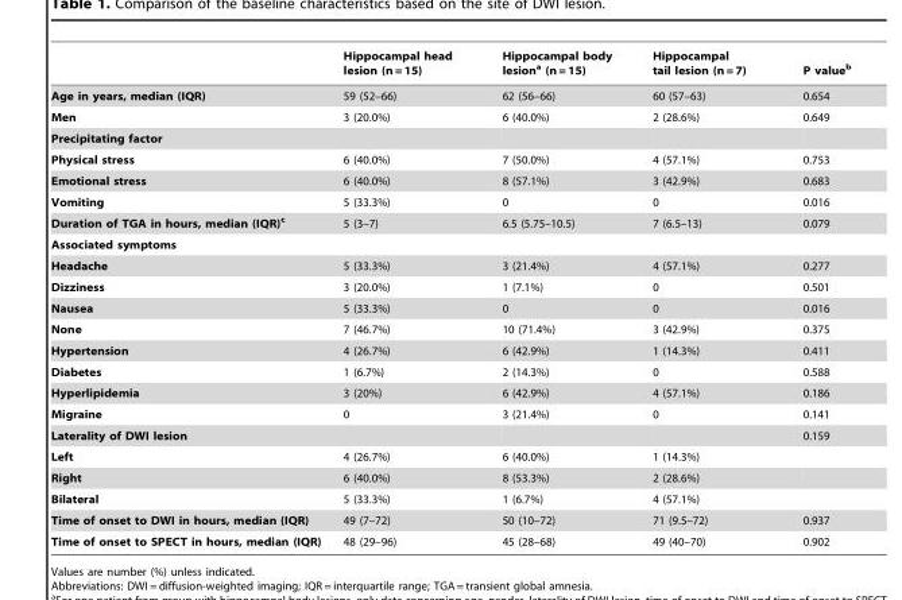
<table><thead><tr><td></td><td>Hippocampal head lesion (n = 15)</td><td>Hippocampal body lesion<sup>a</sup> (n = 15)</td><td>Hippocampal tail lesion (n = 7)</td><td>P value<sup>b</sup></td></tr></thead><tbody><tr><td>Age in years, median (IQR)</td><td>59 (52–66)</td><td>62 (56–66)</td><td>60 (57–63)</td><td>0.654</td></tr><tr><td>Men</td><td>3 (20.0%)</td><td>6 (40.0%)</td><td>2 (28.6%)</td><td>0.649</td></tr><tr><td colspan="5">Precipitating factor</td></tr><tr><td>Physical stress</td><td>6 (40.0%)</td><td>7 (50.0%)</td><td>4 (57.1%)</td><td>0.753</td></tr><tr><td>Emotional stress</td><td>6 (40.0%)</td><td>8 (57.1%)</td><td>3 (42.9%)</td><td>0.683</td></tr><tr><td>Vomiting</td><td>5 (33.3%)</td><td>0</td><td>0</td><td>0.016</td></tr><tr><td>Duration of TGA in hours, median (IQR)c</td><td>5 (3–7)</td><td>6.5 (5.75–10.5)</td><td>7 (6.5–13)</td><td>0.079</td></tr><tr><td colspan="5">Associated symptoms</td></tr><tr><td>Headache</td><td>5 (33.3%)</td><td>3 (21.4%)</td><td>4 (57.1%)</td><td>0.277</td></tr><tr><td>Dizziness</td><td>3 (20.0%)</td><td>1 (7.1%)</td><td>0</td><td>0.501</td></tr><tr><td>Nausea</td><td>5 (33.3%)</td><td>0</td><td>0</td><td>0.016</td></tr><tr><td>None</td><td>7 (46.7%)</td><td>10 (71.4%)</td><td>3 (42.9%)</td><td>0.375</td></tr><tr><td>Hypertension</td><td>4 (26.7%)</td><td>6 (42.9%)</td><td>1 (14.3%)</td><td>0.411</td></tr><tr><td>Diabetes</td><td>1 (6.7%)</td><td>2 (14.3%)</td><td>0</td><td>0.588</td></tr><tr><td>Hyperlipidemia</td><td>3 (20%)</td><td>6 (42.9%)</td><td>4 (57.1%)</td><td>0.186</td></tr><tr><td>Migraine</td><td>0</td><td>3 (21.4%)</td><td>0</td><td>0.141</td></tr><tr><td>Laterality of DWI lesion</td><td></td><td></td><td></td><td>0.159</td></tr><tr><td>Left</td><td>4 (26.7%)</td><td>6 (40.0%)</td><td>1 (14.3%)</td><td></td></tr><tr><td>Right</td><td>6 (40.0%)</td><td>8 (53.3%)</td><td>2 (28.6%)</td><td></td></tr><tr><td>Bilateral</td><td>5 (33.3%)</td><td>1 (6.7%)</td><td>4 (57.1%)</td><td></td></tr><tr><td>Time of onset to DWI in hours, median (IQR)</td><td>49 (7–72)</td><td>50 (10–72)</td><td>71 (9.5–72)</td><td>0.937</td></tr><tr><td>Time of onset to SPECT in hours, median (IQR)</td><td>48 (29–96)</td><td>45 (28–68)</td><td>49 (40–70)</td><td>0.902</td></tr></tbody></table>